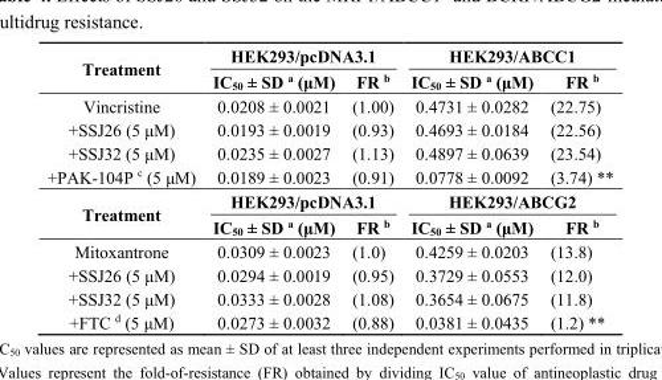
<table><thead><tr><td rowspan="2">Treatment</td><td colspan="2">HEK293/pcDNA3.1</td><td colspan="2">HEK293/ABCC1</td></tr><tr><td>IC<sub>50</sub> ± SD <sup>a</sup> (μM)</td><td>FR <sup>b</sup></td><td>IC<sub>50</sub> ± SD <sup>a</sup> (μM)</td><td>FR <sup>b</sup></td></tr></thead><tbody><tr><td>Vincristine</td><td>0.0208 ± 0.0021</td><td>(1.00)</td><td>0.4731 ± 0.0282</td><td>(22.75)</td></tr><tr><td>+SSJ26 (5 μM)</td><td>0.0193 ± 0.0019</td><td>(0.93)</td><td>0.4693 ± 0.0184</td><td>(22.56)</td></tr><tr><td>+SSJ32 (5 μM)</td><td>0.0235 ± 0.0027</td><td>(1.13)</td><td>0.4897 ± 0.0639</td><td>(23.54)</td></tr><tr><td>+PAK-104P <sup>c</sup> (5 μM)</td><td>0.0189 ± 0.0023</td><td>(0.91)</td><td>0.0778 ± 0.0092</td><td>(3.74) **</td></tr><tr><td rowspan="2">Treatment</td><td colspan="2">HEK293/pcDNA3.1</td><td colspan="2">HEK293/ABCG2</td></tr><tr><td>IC<sub>50</sub> ± SD <sup>a</sup> (μM)</td><td>FR <sup>b</sup></td><td>IC<sub>50</sub> ± SD <sup>a</sup> (μM)</td><td>FR <sup>b</sup></td></tr><tr><td>Mitoxantrone</td><td>0.0309 ± 0.0023</td><td>(1.0)</td><td>0.4259 ± 0.0203</td><td>(13.8)</td></tr><tr><td>+SSJ26 (5 μM)</td><td>0.0294 ± 0.0019</td><td>(0.95)</td><td>0.3729 ± 0.0553</td><td>(12.0)</td></tr><tr><td>+SSJ32 (5 μM)</td><td>0.0333 ± 0.0028</td><td>(1.08)</td><td>0.3654 ± 0.0675</td><td>(11.8)</td></tr><tr><td>+FTC <sup>d</sup> (5 μM)</td><td>0.0273 ± 0.0032</td><td>(0.88)</td><td>0.0381 ± 0.0435</td><td>(1.2) **</td></tr></tbody></table>